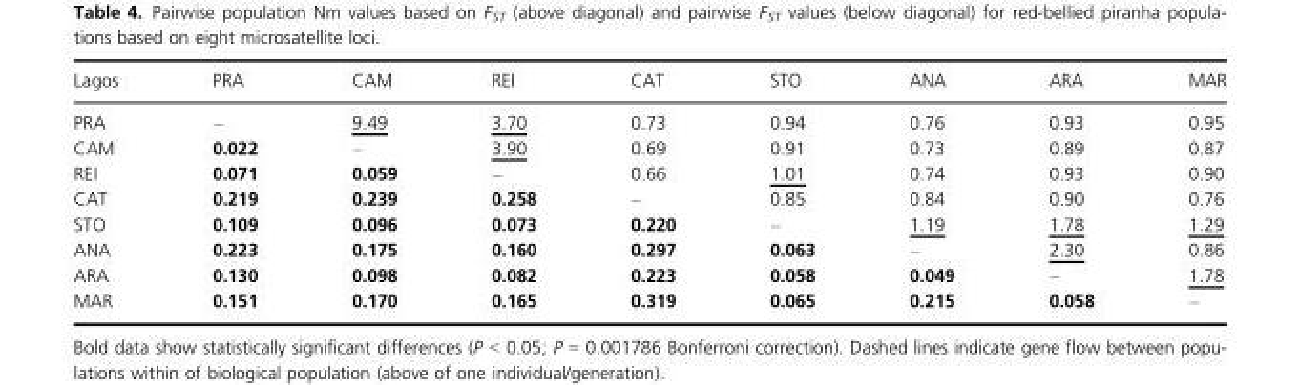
<table><thead><tr><td>Lagos</td><td>PRA</td><td>CAM</td><td>REI</td><td>CAT</td><td>STO</td><td>ANA</td><td>ARA</td><td>MAR</td></tr></thead><tbody><tr><td>PRA</td><td>–</td><td>9.49</td><td>3.70</td><td>0.73</td><td>0.94</td><td>0.76</td><td>0.93</td><td>0.95</td></tr><tr><td>CAM</td><td>0.022</td><td>–</td><td>3.90</td><td>0.69</td><td>0.91</td><td>0.73</td><td>0.89</td><td>0.87</td></tr><tr><td>REI</td><td>0.071</td><td>0.059</td><td>–</td><td>0.66</td><td>1.01</td><td>0.74</td><td>0.93</td><td>0.90</td></tr><tr><td>CAT</td><td>0.219</td><td>0.239</td><td>0.258</td><td>–</td><td>0.85</td><td>0.84</td><td>0.90</td><td>0.76</td></tr><tr><td>STO</td><td>0.109</td><td>0.096</td><td>0.073</td><td>0.220</td><td>–</td><td>1.19</td><td>1.78</td><td>1.29</td></tr><tr><td>ANA</td><td>0.223</td><td>0.175</td><td>0.160</td><td>0.297</td><td>0.063</td><td>–</td><td>2.30</td><td>0.86</td></tr><tr><td>ARA</td><td>0.130</td><td>0.098</td><td>0.082</td><td>0.223</td><td>0.058</td><td>0.049</td><td>–</td><td>1.78</td></tr><tr><td>MAR</td><td>0.151</td><td>0.170</td><td>0.165</td><td>0.319</td><td>0.065</td><td>0.215</td><td>0.058</td><td>–</td></tr></tbody></table>